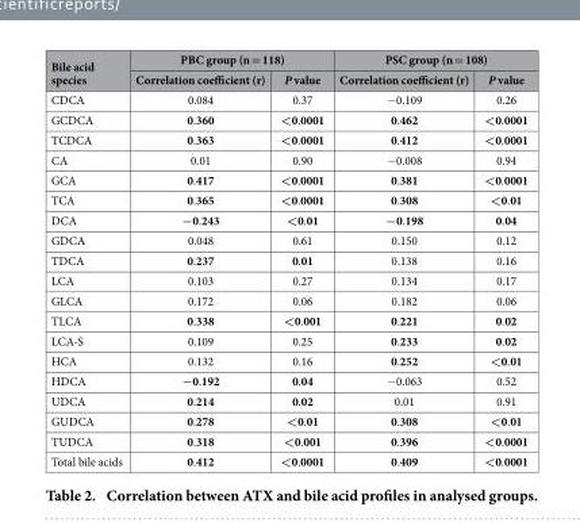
<table><thead><tr><td rowspan="2">Bile acid species</td><td colspan="2">PBC group (n = 118)</td><td colspan="2">PSC group (n = 108)</td></tr><tr><td>Correlation coefficient (r)</td><td>P value</td><td>Correlation coefficient (r)</td><td>P value</td></tr></thead><tbody><tr><td>CDCA</td><td>0.084</td><td>0.37</td><td>− 0.109</td><td>0.26</td></tr><tr><td>GCDCA</td><td>0.360</td><td>&lt;0.0001</td><td>0.462</td><td>&lt;0.0001</td></tr><tr><td>TCDCA</td><td>0.363</td><td>&lt;0.0001</td><td>0.412</td><td>&lt;0.0001</td></tr><tr><td>CA</td><td>0.01</td><td>0.90</td><td>− 0.008</td><td>0.94</td></tr><tr><td>GCA</td><td>0.417</td><td>&lt;0.0001</td><td>0.381</td><td>&lt;0.0001</td></tr><tr><td>TCA</td><td>0.365</td><td>&lt;0.0001</td><td>0.308</td><td>&lt;0.01</td></tr><tr><td>DCA</td><td>−0.243</td><td>&lt;0.01</td><td>−0.198</td><td>0.04</td></tr><tr><td>GDCA</td><td>0.048</td><td>0.61</td><td>0.150</td><td>0.12</td></tr><tr><td>TDCA</td><td>0.237</td><td>0.01</td><td>0.138</td><td>0.16</td></tr><tr><td>LCA</td><td>0.103</td><td>0.27</td><td>0.134</td><td>0.17</td></tr><tr><td>GLCA</td><td>0.172</td><td>0.06</td><td>0.182</td><td>0.06</td></tr><tr><td>TLCA</td><td>0.338</td><td>&lt;0.001</td><td>0.221</td><td>0.02</td></tr><tr><td>LCA-S</td><td>0.109</td><td>0.25</td><td>0.233</td><td>0.02</td></tr><tr><td>HCA</td><td>0.132</td><td>0.16</td><td>0.252</td><td>&lt;0.01</td></tr><tr><td>HDCA</td><td>−0.192</td><td>0.04</td><td>− 0.063</td><td>0.52</td></tr><tr><td>UDCA</td><td>0.214</td><td>0.02</td><td>0.01</td><td>0.91</td></tr><tr><td>GUDCA</td><td>0.278</td><td>&lt;0.01</td><td>0.308</td><td>&lt;0.01</td></tr><tr><td>TUDCA</td><td>0.318</td><td>&lt;0.001</td><td>0.396</td><td>&lt;0.0001</td></tr><tr><td>Total bile acids</td><td>0.412</td><td>&lt;0.0001</td><td>0.409</td><td>&lt;0.0001</td></tr></tbody></table>